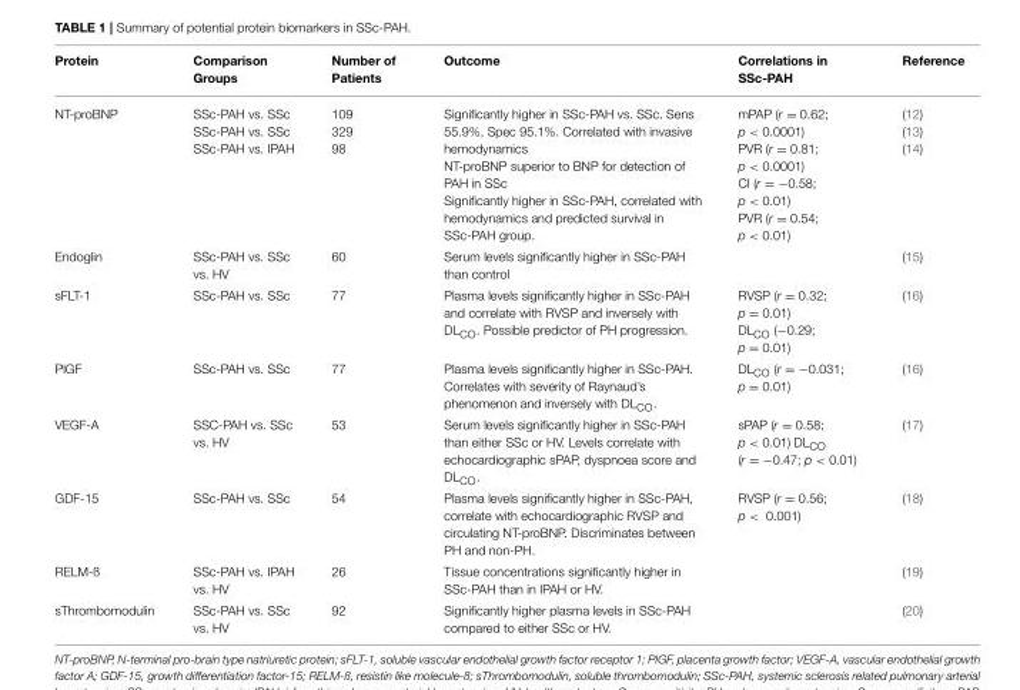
<table><thead><tr><td>Protein</td><td>Comparison Groups</td><td>Number of Patients</td><td>Outcome</td><td>Correlations in SSc-PAH</td><td>Reference</td></tr></thead><tbody><tr><td>NT-proBNP</td><td>SSc-PAH vs. SSc SSc-PAH vs. SSc SSc-PAH vs. IPAH</td><td>109 329 98</td><td>Significantly higher in SSc-PAH vs. SSc. Sens 55.9%, Spec 95.1%. Correlated with invasive hemodynamics NT-proBNP superior to BNP for detection of PAH in SSc Significantly higher in SSc-PAH, correlated with hemodynamics and predicted survival in SSc-PAH group.</td><td>mPAP (r = 0.62; p &lt; 0.0001) PVR (r = 0.81; p &lt; 0.0001) CI (r = −0.58; p &lt; 0.01) PVR (r = 0.54; p &lt; 0.01)</td><td>(12) (13) (14)</td></tr><tr><td>Endoglin</td><td>SSc-PAH vs. SSc vs. HV</td><td>60</td><td>Serum levels significantly higher in SSc-PAH than control</td><td></td><td>(15)</td></tr><tr><td>sFLT-1</td><td>SSc-PAH vs. SSc</td><td>77</td><td>Plasma levels significantly higher in SSc-PAH and correlate with RVSP and inversely with DL<sub>CO</sub>. Possible predictor of PH progression.</td><td>RVSP (r = 0.32; p = 0.01) DL<sub>CO</sub> (−0.29; p = 0.01)</td><td>(16)</td></tr><tr><td>PlGF</td><td>SSc-PAH vs. SSc</td><td>77</td><td>Plasma levels significantly higher in SSc-PAH. Correlates with severity of Raynaud’s phenomenon and inversely with DL<sub>CO</sub>.</td><td>DL<sub>CO</sub> (r = −0.031; p = 0.01)</td><td>(16)</td></tr><tr><td>VEGF-A</td><td>SSC-PAH vs. SSc vs. HV</td><td>53</td><td>Serum levels significantly higher in SSc-PAH than either SSc or HV. Levels correlate with echocardiographic sPAP, dyspnoea score and DL<sub>CO</sub>.</td><td>sPAP (r = 0.58; p &lt; 0.01) DL<sub>CO</sub> (r = −0.47; p &lt; 0.01)</td><td>(17)</td></tr><tr><td>GDF-15</td><td>SSc-PAH vs. SSc</td><td>54</td><td>Plasma levels significantly higher in SSc-PAH, correlate with echocardiographic RVSP and circulating NT-proBNP. Discriminates between PH and non-PH.</td><td>RVSP (r = 0.56; p &lt; 0.001)</td><td>(18)</td></tr><tr><td>RELM-ß</td><td>SSc-PAH vs. IPAH vs. HV</td><td>26</td><td>Tissue concentrations significantly higher in SSc-PAH than in IPAH or HV.</td><td></td><td>(19)</td></tr><tr><td>sThrombomodulin</td><td>SSc-PAH vs. SSc vs. HV</td><td>92</td><td>Significantly higher plasma levels in SSc-PAH compared to either SSc or HV.</td><td></td><td>(20)</td></tr></tbody></table>